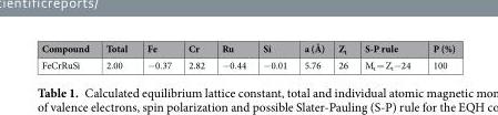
<table><thead><tr><td>Compound</td><td>Total</td><td>Fe</td><td>Cr</td><td>Ru</td><td>Si</td><td>a (Å)</td><td>Z<sub>t</sub></td><td>S-P rule</td><td>P (%)</td></tr></thead><tbody><tr><td>FeCrRuSi</td><td>2.00</td><td>−0.37</td><td>2.82</td><td>−0.44</td><td>−0.01</td><td>5.76</td><td>26</td><td>M<sub>t</sub> = Z<sub>t</sub>−24</td><td>100</td></tr></tbody></table>